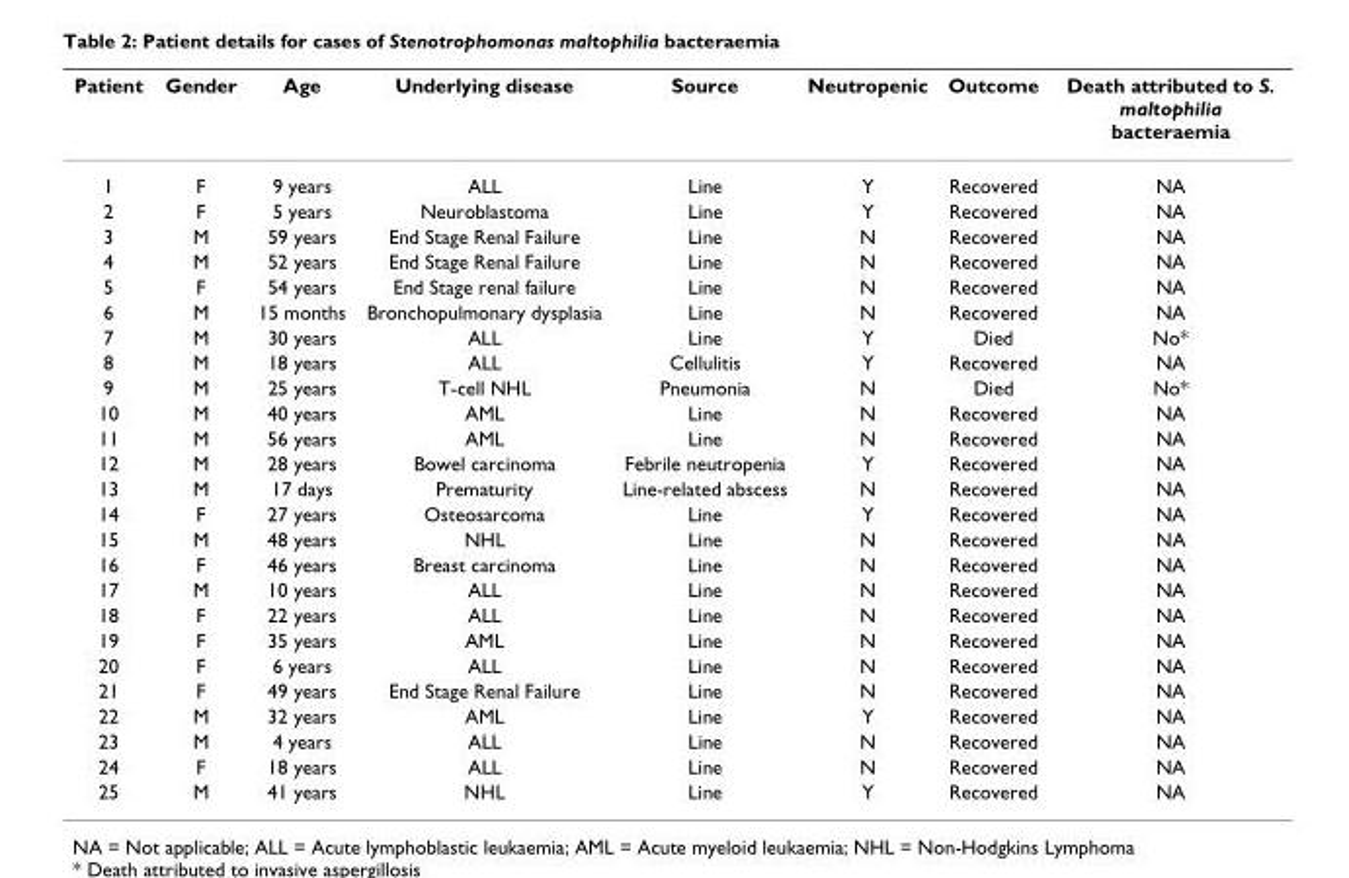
<table><thead><tr><td>Patient</td><td>Gender</td><td>Age</td><td>Underlying disease</td><td>Source</td><td>Neutropenic</td><td>Outcome</td><td>Death attributed to S. maltophilia bacteraemia</td></tr></thead><tbody><tr><td>1</td><td>F</td><td>9 years</td><td>ALL</td><td>Line</td><td>Y</td><td>Recovered</td><td>NA</td></tr><tr><td>2</td><td>F</td><td>5 years</td><td>Neuroblastoma</td><td>Line</td><td>Y</td><td>Recovered</td><td>NA</td></tr><tr><td>3</td><td>M</td><td>59 years</td><td>End Stage Renal Failure</td><td>Line</td><td>N</td><td>Recovered</td><td>NA</td></tr><tr><td>4</td><td>M</td><td>52 years</td><td>End Stage Renal Failure</td><td>Line</td><td>N</td><td>Recovered</td><td>NA</td></tr><tr><td>5</td><td>F</td><td>54 years</td><td>End Stage renal failure</td><td>Line</td><td>N</td><td>Recovered</td><td>NA</td></tr><tr><td>6</td><td>M</td><td>15 months</td><td>Bronchopulmonary dysplasia</td><td>Line</td><td>N</td><td>Recovered</td><td>NA</td></tr><tr><td>7</td><td>M</td><td>30 years</td><td>ALL</td><td>Line</td><td>Y</td><td>Died</td><td>No*</td></tr><tr><td>8</td><td>M</td><td>18 years</td><td>ALL</td><td>Cellulitis</td><td>Y</td><td>Recovered</td><td>NA</td></tr><tr><td>9</td><td>M</td><td>25 years</td><td>T-cell NHL</td><td>Pneumonia</td><td>N</td><td>Died</td><td>No*</td></tr><tr><td>10</td><td>M</td><td>40 years</td><td>AML</td><td>Line</td><td>N</td><td>Recovered</td><td>NA</td></tr><tr><td>11</td><td>M</td><td>56 years</td><td>AML</td><td>Line</td><td>N</td><td>Recovered</td><td>NA</td></tr><tr><td>12</td><td>M</td><td>28 years</td><td>Bowel carcinoma</td><td>Febrile neutropenia</td><td>Y</td><td>Recovered</td><td>NA</td></tr><tr><td>13</td><td>M</td><td>17 days</td><td>Prematurity</td><td>Line-related abscess</td><td>N</td><td>Recovered</td><td>NA</td></tr><tr><td>14</td><td>F</td><td>27 years</td><td>Osteosarcoma</td><td>Line</td><td>Y</td><td>Recovered</td><td>NA</td></tr><tr><td>15</td><td>M</td><td>48 years</td><td>NHL</td><td>Line</td><td>N</td><td>Recovered</td><td>NA</td></tr><tr><td>16</td><td>F</td><td>46 years</td><td>Breast carcinoma</td><td>Line</td><td>N</td><td>Recovered</td><td>NA</td></tr><tr><td>17</td><td>M</td><td>10 years</td><td>ALL</td><td>Line</td><td>N</td><td>Recovered</td><td>NA</td></tr><tr><td>18</td><td>F</td><td>22 years</td><td>ALL</td><td>Line</td><td>N</td><td>Recovered</td><td>NA</td></tr><tr><td>19</td><td>F</td><td>35 years</td><td>AML</td><td>Line</td><td>N</td><td>Recovered</td><td>NA</td></tr><tr><td>20</td><td>F</td><td>6 years</td><td>ALL</td><td>Line</td><td>N</td><td>Recovered</td><td>NA</td></tr><tr><td>21</td><td>F</td><td>49 years</td><td>End Stage Renal Failure</td><td>Line</td><td>N</td><td>Recovered</td><td>NA</td></tr><tr><td>22</td><td>M</td><td>32 years</td><td>AML</td><td>Line</td><td>Y</td><td>Recovered</td><td>NA</td></tr><tr><td>23</td><td>M</td><td>4 years</td><td>ALL</td><td>Line</td><td>N</td><td>Recovered</td><td>NA</td></tr><tr><td>24</td><td>F</td><td>18 years</td><td>ALL</td><td>Line</td><td>N</td><td>Recovered</td><td>NA</td></tr><tr><td>25</td><td>M</td><td>41 years</td><td>NHL</td><td>Line</td><td>Y</td><td>Recovered</td><td>NA</td></tr></tbody></table>